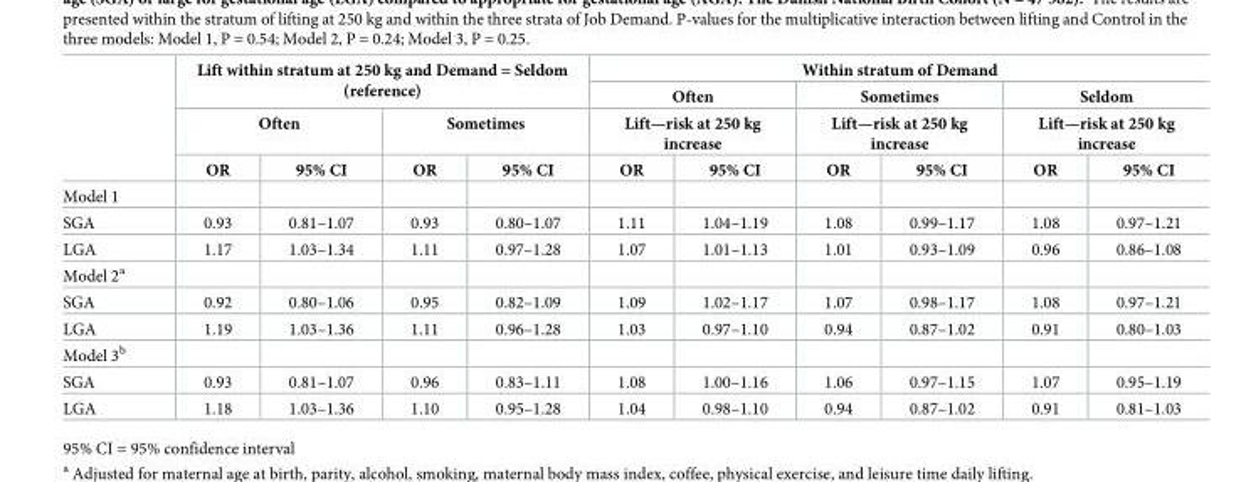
<table><thead><tr><td rowspan="4"></td><td rowspan="2" colspan="4">Lift within stratum at 250 kg and Demand = Seldom (reference)</td><td colspan="6">Within stratum of Demand</td></tr><tr><td rowspan="2" colspan="2">Often Lift—risk at 250 kg increase</td><td rowspan="2" colspan="2">Sometimes Lift—risk at 250 kg increase</td><td rowspan="2" colspan="2">Seldom Lift—risk at 250 kg increase</td></tr><tr><td colspan="2">Often</td><td colspan="2">Sometimes</td></tr><tr><td>OR</td><td>95% CI</td><td>OR</td><td>95% CI</td><td>OR</td><td>95% CI</td><td>OR</td><td>95% CI</td><td>OR</td><td>95% CI</td></tr></thead><tbody><tr><td colspan="11">Model 1</td></tr><tr><td>SGA</td><td>0.93</td><td>0.81–1.07</td><td>0.93</td><td>0.80–1.07</td><td>1.11</td><td>1.04–1.19</td><td>1.08</td><td>0.99–1.17</td><td>1.08</td><td>0.97–1.21</td></tr><tr><td>LGA</td><td>1.17</td><td>1.03–1.34</td><td>1.11</td><td>0.97–1.28</td><td>1.07</td><td>1.01–1.13</td><td>1.01</td><td>0.93–1.09</td><td>0.96</td><td>0.86–1.08</td></tr><tr><td colspan="11">Model 2<sup>a</sup></td></tr><tr><td>SGA</td><td>0.92</td><td>0.80–1.06</td><td>0.95</td><td>0.82–1.09</td><td>1.09</td><td>1.02–1.17</td><td>1.07</td><td>0.98–1.17</td><td>1.08</td><td>0.97–1.21</td></tr><tr><td>LGA</td><td>1.19</td><td>1.03–1.36</td><td>1.11</td><td>0.96–1.28</td><td>1.03</td><td>0.97–1.10</td><td>0.94</td><td>0.87–1.02</td><td>0.91</td><td>0.80–1.03</td></tr><tr><td colspan="11">Model 3<sup>b</sup></td></tr><tr><td>SGA</td><td>0.93</td><td>0.81–1.07</td><td>0.96</td><td>0.83–1.11</td><td>1.08</td><td>1.00–1.16</td><td>1.06</td><td>0.97–1.15</td><td>1.07</td><td>0.95–1.19</td></tr><tr><td>LGA</td><td>1.18</td><td>1.03–1.36</td><td>1.10</td><td>0.95–1.28</td><td>1.04</td><td>0.98–1.10</td><td>0.94</td><td>0.87–1.02</td><td>0.91</td><td>0.81–1.03</td></tr></tbody></table>